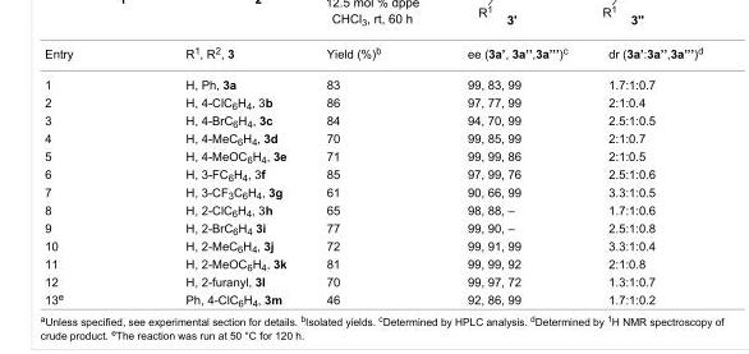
<table><tbody><tr><td>Entry</td><td>R<sup>1</sup>, R<sup>2</sup>, 3</td><td>Yield (%)<sup>b</sup></td><td>ee (3a’, 3a’’,3a’’’)<sup>c</sup></td><td>dr (3a’:3a’’,3a’’’)<sup>d</sup></td></tr><tr><td>1</td><td>H, Ph, 3a</td><td>83</td><td>99, 83, 99</td><td>1.7:1:0.7</td></tr><tr><td>2</td><td>H, 4-ClC<sub>6</sub>H<sub>4</sub>, 3b</td><td>86</td><td>97, 77, 99</td><td>2:1:0.4</td></tr><tr><td>3</td><td>H, 4-BrC<sub>6</sub>H<sub>4</sub>, 3c</td><td>84</td><td>94, 70, 99</td><td>2.5:1:0.5</td></tr><tr><td>4</td><td>H, 4-MeC<sub>6</sub>H<sub>4</sub>, 3d</td><td>70</td><td>99, 85, 99</td><td>2:1:0.7</td></tr><tr><td>5</td><td>H, 4-MeOC<sub>6</sub>H<sub>4</sub>, 3e</td><td>71</td><td>99, 99, 86</td><td>2:1:0.5</td></tr><tr><td>6</td><td>H, 3-FC<sub>6</sub>H<sub>4</sub>, 3f</td><td>85</td><td>97, 99, 76</td><td>2.5:1:0.6</td></tr><tr><td>7</td><td>H, 3-CF<sub>3</sub>C<sub>6</sub>H<sub>4</sub>, 3g</td><td>61</td><td>90, 66, 99</td><td>3.3:1:0.5</td></tr><tr><td>8</td><td>H, 2-ClC<sub>6</sub>H<sub>4</sub>, 3h</td><td>65</td><td>98, 88, –</td><td>1.7:1:0.6</td></tr><tr><td>9</td><td>H, 2-BrC<sub>6</sub>H<sub>4</sub> 3i</td><td>77</td><td>99, 90, –</td><td>2.5:1:0.8</td></tr><tr><td>10</td><td>H, 2-MeC<sub>6</sub>H<sub>4</sub>, 3j</td><td>72</td><td>99, 91, 99</td><td>3.3:1:0.4</td></tr><tr><td>11</td><td>H, 2-MeOC<sub>6</sub>H<sub>4</sub>, 3k</td><td>81</td><td>99, 99, 92</td><td>2:1:0.8</td></tr><tr><td>12</td><td>H, 2-furanyl, 3l</td><td>70</td><td>99, 97, 72</td><td>1.3:1:0.7</td></tr><tr><td>13<sup>e</sup></td><td>Ph, 4-ClC<sub>6</sub>H<sub>4</sub>, 3m</td><td>46</td><td>92, 86, 99</td><td>1.7:1:0.2</td></tr></tbody></table>